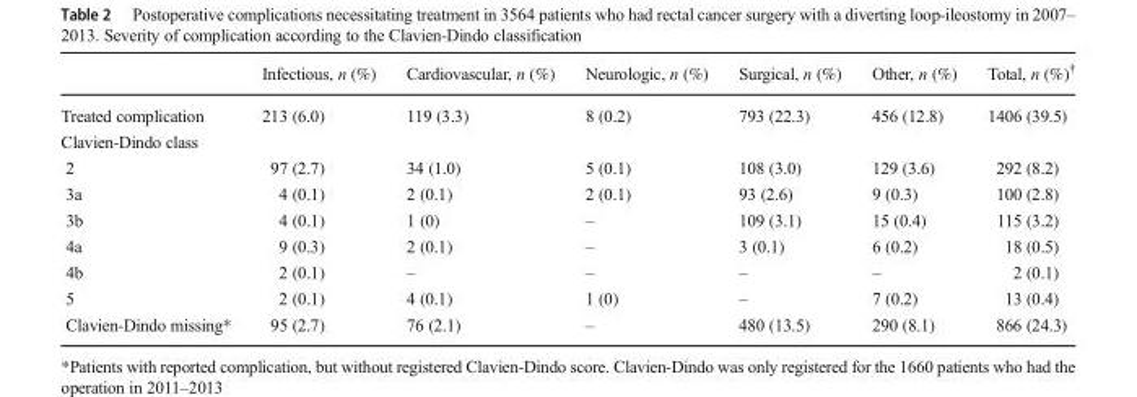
<table><thead><tr><td></td><td>Infectious, n (%)</td><td>Cardiovascular, n (%)</td><td>Neurologic, n (%)</td><td>Surgical, n (%)</td><td>Other, n (%)</td><td>Total, n (%)<sup>†</sup></td></tr></thead><tbody><tr><td>Treated complication</td><td>213 (6.0)</td><td>119 (3.3)</td><td>8 (0.2)</td><td>793 (22.3)</td><td>456 (12.8)</td><td>1406 (39.5)</td></tr><tr><td colspan="7">Clavien-Dindo class</td></tr><tr><td>2</td><td>97 (2.7)</td><td>34 (1.0)</td><td>5 (0.1)</td><td>108 (3.0)</td><td>129 (3.6)</td><td>292 (8.2)</td></tr><tr><td>3a</td><td>4 (0.1)</td><td>2 (0.1)</td><td>2 (0.1)</td><td>93 (2.6)</td><td>9 (0.3)</td><td>100 (2.8)</td></tr><tr><td>3b</td><td>4 (0.1)</td><td>1 (0)</td><td>–</td><td>109 (3.1)</td><td>15 (0.4)</td><td>115 (3.2)</td></tr><tr><td>4a</td><td>9 (0.3)</td><td>2 (0.1)</td><td>–</td><td>3 (0.1)</td><td>6 (0.2)</td><td>18 (0.5)</td></tr><tr><td>4b</td><td>2 (0.1)</td><td>–</td><td>–</td><td>–</td><td>–</td><td>2 (0.1)</td></tr><tr><td>5</td><td>2 (0.1)</td><td>4 (0.1)</td><td>1 (0)</td><td>–</td><td>7 (0.2)</td><td>13 (0.4)</td></tr><tr><td>Clavien-Dindo missing*</td><td>95 (2.7)</td><td>76 (2.1)</td><td>–</td><td>480 (13.5)</td><td>290 (8.1)</td><td>866 (24.3)</td></tr></tbody></table>